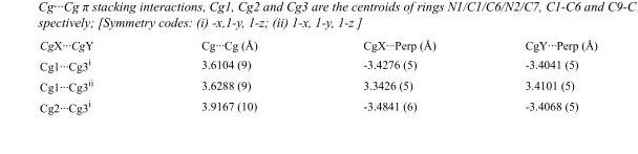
<table><tbody><tr><td>CgX···CgY</td><td>Cg···Cg (Å)</td><td>CgX···Perp (Å)</td><td>CgY···Perp (Å)</td></tr><tr><td>Cg1···Cg3<sup>i</sup></td><td>3.6104 (9)</td><td>-3.4276 (5)</td><td>-3.4041 (5)</td></tr><tr><td>Cg1···Cg3<sup>ii</sup></td><td>3.6288 (9)</td><td>3.3426 (5)</td><td>3.4101 (5)</td></tr><tr><td>Cg2···Cg3<sup>i</sup></td><td>3.9167 (10)</td><td>-3.4841 (6)</td><td>-3.4068 (5)</td></tr></tbody></table>